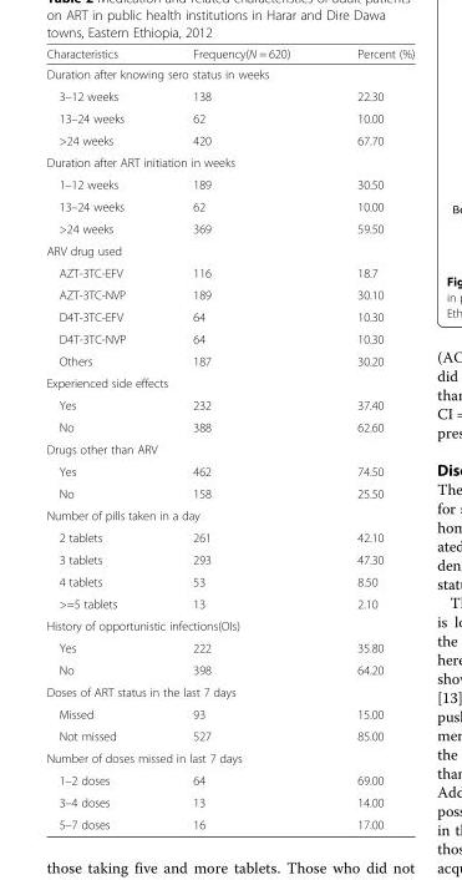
<table><thead><tr><td>Characteristics</td><td>Frequency(N = 620)</td><td>Percent (%)</td></tr></thead><tbody><tr><td colspan="3">Duration after knowing sero status in weeks</td></tr><tr><td>3–12 weeks</td><td>138</td><td>22.30</td></tr><tr><td>13–24 weeks</td><td>62</td><td>10.00</td></tr><tr><td>&gt;24 weeks</td><td>420</td><td>67.70</td></tr><tr><td colspan="3">Duration after ART initiation in weeks</td></tr><tr><td>1–12 weeks</td><td>189</td><td>30.50</td></tr><tr><td>13–24 weeks</td><td>62</td><td>10.00</td></tr><tr><td>&gt;24 weeks</td><td>369</td><td>59.50</td></tr><tr><td colspan="3">ARV drug used</td></tr><tr><td>AZT-3TC-EFV</td><td>116</td><td>18.7</td></tr><tr><td>AZT-3TC-NVP</td><td>189</td><td>30.10</td></tr><tr><td>D4T-3TC-EFV</td><td>64</td><td>10.30</td></tr><tr><td>D4T-3TC-NVP</td><td>64</td><td>10.30</td></tr><tr><td>Others</td><td>187</td><td>30.20</td></tr><tr><td colspan="3">Experienced side effects</td></tr><tr><td>Yes</td><td>232</td><td>37.40</td></tr><tr><td>No</td><td>388</td><td>62.60</td></tr><tr><td colspan="3">Drugs other than ARV</td></tr><tr><td>Yes</td><td>462</td><td>74.50</td></tr><tr><td>No</td><td>158</td><td>25.50</td></tr><tr><td colspan="3">Number of pills taken in a day</td></tr><tr><td>2 tablets</td><td>261</td><td>42.10</td></tr><tr><td>3 tablets</td><td>293</td><td>47.30</td></tr><tr><td>4 tablets</td><td>53</td><td>8.50</td></tr><tr><td>&gt;=5 tablets</td><td>13</td><td>2.10</td></tr><tr><td colspan="3">History of opportunistic infections(OIs)</td></tr><tr><td>Yes</td><td>222</td><td>35.80</td></tr><tr><td>No</td><td>398</td><td>64.20</td></tr><tr><td colspan="3">Doses of ART status in the last 7 days</td></tr><tr><td>Missed</td><td>93</td><td>15.00</td></tr><tr><td>Not missed</td><td>527</td><td>85.00</td></tr><tr><td colspan="3">Number of doses missed in last 7 days</td></tr><tr><td>1–2 doses</td><td>64</td><td>69.00</td></tr><tr><td>3–4 doses</td><td>13</td><td>14.00</td></tr><tr><td>5–7 doses</td><td>16</td><td>17.00</td></tr></tbody></table>